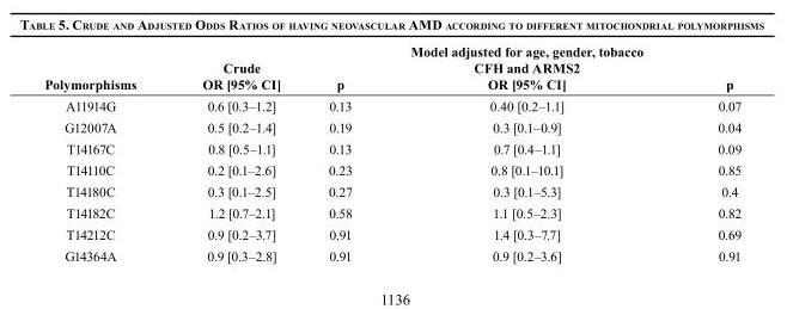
<table><thead><tr><td>Polymorphisms</td><td>Crude OR [95% CI]</td><td>p</td><td>Model adjusted for age, gender, tobacco CFH and ARMS2 OR [95% CI]</td><td>p</td></tr></thead><tbody><tr><td>A11914G</td><td>0.6 [0.3–1.2]</td><td>0.13</td><td>0.40 [0.2–1.1]</td><td>0.07</td></tr><tr><td>G12007A</td><td>0.5 [0.2–1.4]</td><td>0.19</td><td>0.3 [0.1–0.9]</td><td>0.04</td></tr><tr><td>T14167C</td><td>0.8 [0.5–1.1]</td><td>0.13</td><td>0.7 [0.4–1.1]</td><td>0.09</td></tr><tr><td>T14110C</td><td>0.2 [0.1–2.6]</td><td>0.23</td><td>0.8 [0.1–10.1]</td><td>0.85</td></tr><tr><td>T14180C</td><td>0.3 [0.1–2.5]</td><td>0.27</td><td>0.3 [0.1–5.3]</td><td>0.4</td></tr><tr><td>T14182C</td><td>1.2 [0.7–2.1]</td><td>0.58</td><td>1.1 [0.5–2.3]</td><td>0.82</td></tr><tr><td>T14212C</td><td>0.9 [0.2–3.7]</td><td>0.91</td><td>1.4 [0.3–7.7]</td><td>0.69</td></tr><tr><td>G14364A</td><td>0.9 [0.3–2.8]</td><td>0.91</td><td>0.9 [0.2–3.6]</td><td>0.91</td></tr></tbody></table>